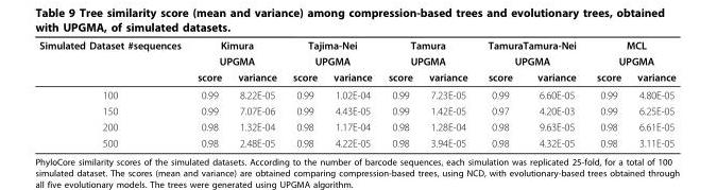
<table><thead><tr><td rowspan="3">Simulated Dataset #sequences</td><td rowspan="2" colspan="2">Kimura UPGMA</td><td rowspan="2" colspan="2">Tajima-Nei UPGMA</td><td rowspan="2" colspan="2">Tamura UPGMA</td><td rowspan="2" colspan="2">TamuraTamura-Nei UPGMA</td><td rowspan="2" colspan="2">MCL UPGMA</td></tr><tr></tr><tr><td>score</td><td>variance</td><td>score</td><td>variance</td><td>score</td><td>variance</td><td>score</td><td>variance</td><td>score</td><td>variance</td></tr></thead><tbody><tr><td>100</td><td>0.99</td><td>8.22E-05</td><td>0.99</td><td>1.02E-04</td><td>0.99</td><td>7.23E-05</td><td>0.99</td><td>6.60E-05</td><td>0.99</td><td>4.80E-05</td></tr><tr><td>150</td><td>0.99</td><td>7.07E-06</td><td>0.99</td><td>4.43E-05</td><td>0.99</td><td>1.42E-05</td><td>0.97</td><td>4.20E-03</td><td>0.99</td><td>6.25E-05</td></tr><tr><td>200</td><td>0.98</td><td>1.32E-04</td><td>0.98</td><td>1.17E-04</td><td>0.98</td><td>1.28E-04</td><td>0.98</td><td>9.63E-05</td><td>0.98</td><td>6.61E-05</td></tr><tr><td>500</td><td>0.98</td><td>2.48E-05</td><td>0.98</td><td>4.22E-05</td><td>0.98</td><td>3.94E-05</td><td>0.98</td><td>4.32E-05</td><td>0.98</td><td>3.11E-05</td></tr></tbody></table>